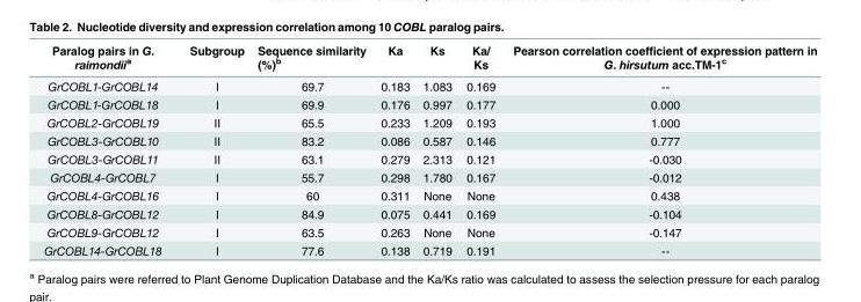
<table><thead><tr><td>Paralog pairs in G. raimondii<sup>a</sup></td><td>Subgroup</td><td>Sequence similarity (%)<sup>b</sup></td><td>Ka</td><td>Ks</td><td>Ka/ Ks</td><td>Pearson correlation coefficient of expression pattern in G. hirsutum acc.TM-1<sup>c</sup></td></tr></thead><tbody><tr><td>GrCOBL1-GrCOBL14</td><td>Ⅰ</td><td>69.7</td><td>0.183</td><td>1.083</td><td>0.169</td><td>--</td></tr><tr><td>GrCOBL1-GrCOBL18</td><td>Ⅰ</td><td>69.9</td><td>0.176</td><td>0.997</td><td>0.177</td><td>0.000</td></tr><tr><td>GrCOBL2-GrCOBL19</td><td>Ⅱ</td><td>65.5</td><td>0.233</td><td>1.209</td><td>0.193</td><td>1.000</td></tr><tr><td>GrCOBL3-GrCOBL10</td><td>Ⅱ</td><td>83.2</td><td>0.086</td><td>0.587</td><td>0.146</td><td>0.777</td></tr><tr><td>GrCOBL3-GrCOBL11</td><td>Ⅱ</td><td>63.1</td><td>0.279</td><td>2.313</td><td>0.121</td><td>-0.030</td></tr><tr><td>GrCOBL4-GrCOBL7</td><td>Ⅰ</td><td>55.7</td><td>0.298</td><td>1.780</td><td>0.167</td><td>-0.012</td></tr><tr><td>GrCOBL4-GrCOBL16</td><td>Ⅰ</td><td>60</td><td>0.311</td><td>None</td><td>None</td><td>0.438</td></tr><tr><td>GrCOBL8-GrCOBL12</td><td>Ⅰ</td><td>84.9</td><td>0.075</td><td>0.441</td><td>0.169</td><td>-0.104</td></tr><tr><td>GrCOBL9-GrCOBL12</td><td>Ⅰ</td><td>63.5</td><td>0.263</td><td>None</td><td>None</td><td>-0.147</td></tr><tr><td>GrCOBL14-GrCOBL18</td><td>Ⅰ</td><td>77.6</td><td>0.138</td><td>0.719</td><td>0.191</td><td>--</td></tr></tbody></table>